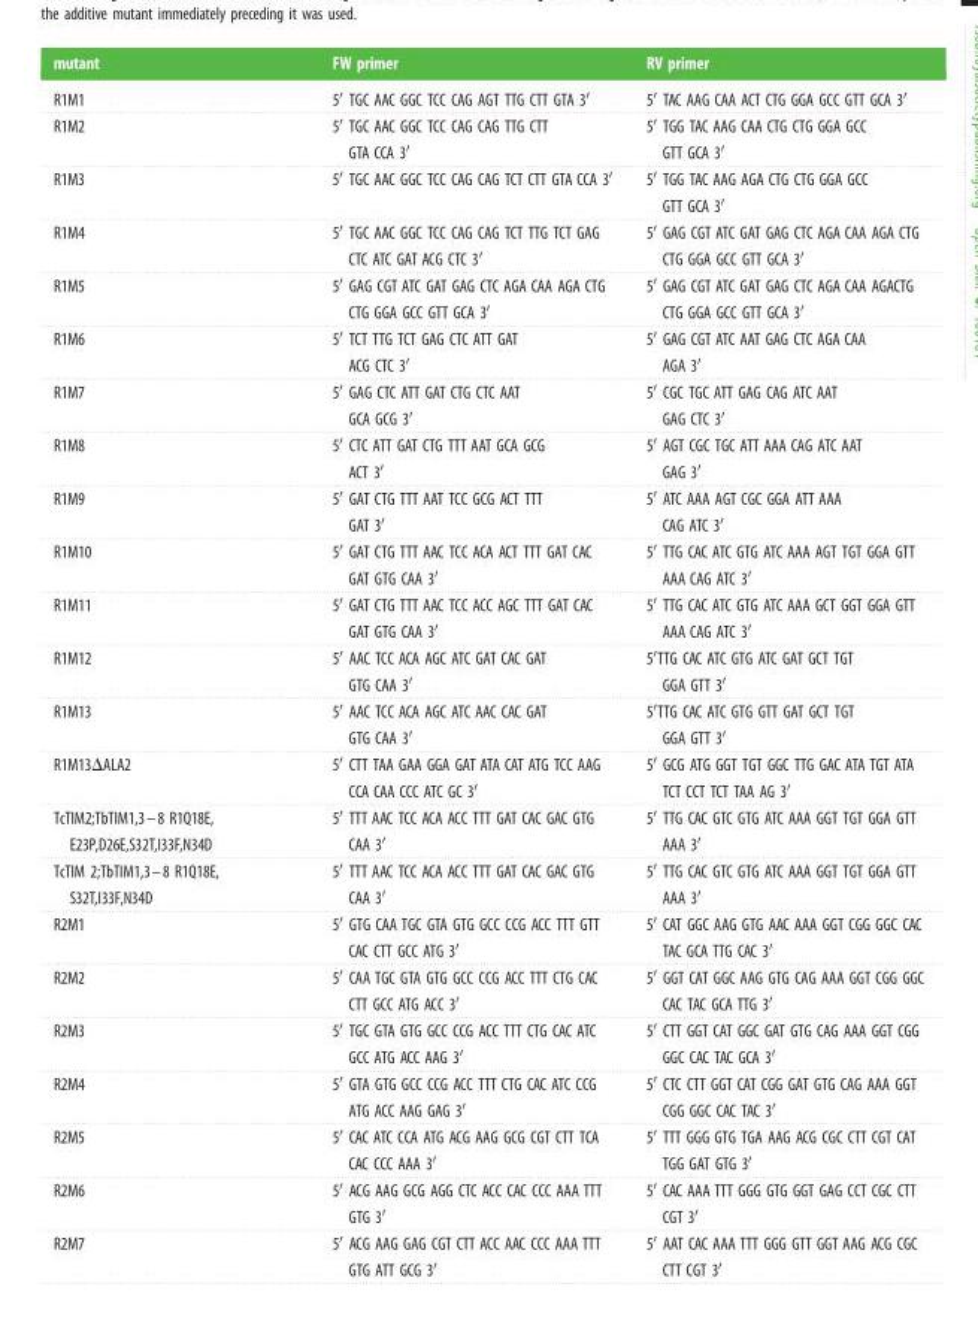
<table><thead><tr><td>mutant</td><td>FW primer</td><td>RV primer</td></tr></thead><tbody><tr><td>R1M1</td><td>5′ TGC AAC GGC TCC CAG AGT TTG CTT GTA 3′</td><td>5′ TAC AAG CAA ACT CTG GGA GCC GTT GCA 3′</td></tr><tr><td>R1M2</td><td>5′ TGC AAC GGC TCC CAG CAG TTG CTT GTA CCA 3′</td><td>5′ TGG TAC AAG CAA CTG CTG GGA GCC GTT GCA 3′</td></tr><tr><td>R1M3</td><td>5′ TGC AAC GGC TCC CAG CAG TCT CTT GTA CCA 3′</td><td>5′ TGG TAC AAG AGA CTG CTG GGA GCC GTT GCA 3′</td></tr><tr><td>R1M4</td><td>5′ TGC AAC GGC TCC CAG CAG TCT TTG TCT GAG CTC ATC GAT ACG CTC 3′</td><td>5′ GAG CGT ATC GAT GAG CTC AGA CAA AGA CTG CTG GGA GCC GTT GCA 3′</td></tr><tr><td>R1M5</td><td>5′ GAG CGT ATC GAT GAG CTC AGA CAA AGA CTG CTG GGA GCC GTT GCA 3′</td><td>5′ GAG CGT ATC GAT GAG CTC AGA CAA AGACTG CTG GGA GCC GTT GCA 3′</td></tr><tr><td>R1M6</td><td>5′ TCT TTG TCT GAG CTC ATT GAT ACG CTC 3′</td><td>5′ GAG CGT ATC AAT GAG CTC AGA CAA AGA 3′</td></tr><tr><td>R1M7</td><td>5′ GAG CTC ATT GAT CTG CTC AAT GCA GCG 3′</td><td>5′ CGC TGC ATT GAG CAG ATC AAT GAG CTC 3′</td></tr><tr><td>R1M8</td><td>5′ CTC ATT GAT CTG TTT AAT GCA GCG ACT 3′</td><td>5′ AGT CGC TGC ATT AAA CAG ATC AAT GAG 3′</td></tr><tr><td>R1M9</td><td>5′ GAT CTG TTT AAT TCC GCG ACT TTT GAT 3′</td><td>5′ ATC AAA AGT CGC GGA ATT AAA CAG ATC 3′</td></tr><tr><td>R1M10</td><td>5′ GAT CTG TTT AAC TCC ACA ACT TTT GAT CAC GAT GTG CAA 3′</td><td>5′ TTG CAC ATC GTG ATC AAA AGT TGT GGA GTT AAA CAG ATC 3′</td></tr><tr><td>R1M11</td><td>5′ GAT CTG TTT AAC TCC ACC AGC TTT GAT CAC GAT GTG CAA 3′</td><td>5′ TTG CAC ATC GTG ATC AAA GCT GGT GGA GTT AAA CAG ATC 3′</td></tr><tr><td>R1M12</td><td>5′ AAC TCC ACA AGC ATC GAT CAC GAT GTG CAA 3′</td><td>5′TTG CAC ATC GTG ATC GAT GCT TGT GGA GTT 3′</td></tr><tr><td>R1M13</td><td>5′ AAC TCC ACA AGC ATC AAC CAC GAT GTG CAA 3′</td><td>5′TTG CAC ATC GTG GTT GAT GCT TGT GGA GTT 3′</td></tr><tr><td>R1M13ΔALA2</td><td>5′ CTT TAA GAA GGA GAT ATA CAT ATG TCC AAG CCA CAA CCC ATC GC 3′</td><td>5′ GCG ATG GGT TGT GGC TTG GAC ATA TGT ATA TCT CCT TCT TAA AG 3′</td></tr><tr><td>TcTIM2;TbTIM1,3–8 R1Q18E, E23P,D26E,S32T,I33F,N34D</td><td>5′ TTT AAC TCC ACA ACC TTT GAT CAC GAC GTG CAA 3′</td><td>5′ TTG CAC GTC GTG ATC AAA GGT TGT GGA GTT AAA 3′</td></tr><tr><td>TcTIM 2;TbTIM1,3–8 R1Q18E, S32T,I33F,N34D</td><td>5′ TTT AAC TCC ACA ACC TTT GAT CAC GAC GTG CAA 3′</td><td>5′ TTG CAC GTC GTG ATC AAA GGT TGT GGA GTT AAA 3′</td></tr><tr><td>R2M1</td><td>5′ GTG CAA TGC GTA GTG GCC CCG ACC TTT GTT CAC CTT GCC ATG 3′</td><td>5′ CAT GGC AAG GTG AAC AAA GGT CGG GGC CAC TAC GCA TTG CAC 3′</td></tr><tr><td>R2M2</td><td>5′ CAA TGC GTA GTG GCC CCG ACC TTT CTG CAC CTT GCC ATG ACC 3′</td><td>5′ GGT CAT GGC AAG GTG CAG AAA GGT CGG GGC CAC TAC GCA TTG 3′</td></tr><tr><td>R2M3</td><td>5′ TGC GTA GTG GCC CCG ACC TTT CTG CAC ATC GCC ATG ACC AAG 3′</td><td>5′ CTT GGT CAT GGC GAT GTG CAG AAA GGT CGG GGC CAC TAC GCA 3′</td></tr><tr><td>R2M4</td><td>5′ GTA GTG GCC CCG ACC TTT CTG CAC ATC CCG ATG ACC AAG GAG 3′</td><td>5′ CTC CTT GGT CAT CGG GAT GTG CAG AAA GGT CGG GGC CAC TAC 3′</td></tr><tr><td>R2M5</td><td>5′ CAC ATC CCA ATG ACG AAG GCG CGT CTT TCA CAC CCC AAA 3′</td><td>5′ TTT GGG GTG TGA AAG ACG CGC CTT CGT CAT TGG GAT GTG 3′</td></tr><tr><td>R2M6</td><td>5′ ACG AAG GCG AGG CTC ACC CAC CCC AAA TTT GTG 3′</td><td>5′ CAC AAA TTT GGG GTG GGT GAG CCT CGC CTT CGT 3′</td></tr><tr><td>R2M7</td><td>5′ ACG AAG GAG CGT CTT ACC AAC CCC AAA TTT GTG ATT GCG 3′</td><td>5′ AAT CAC AAA TTT GGG GTT GGT AAG ACG CGC CTT CGT 3′</td></tr></tbody></table>